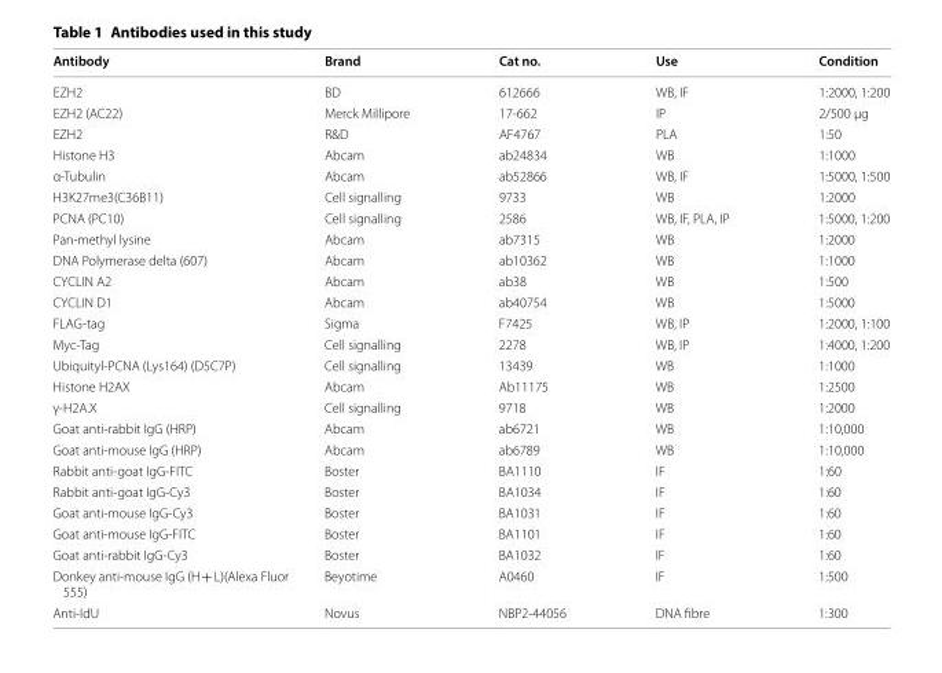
<table><thead><tr><td>Antibody</td><td>Brand</td><td>Cat no.</td><td>Use</td><td>Condition</td></tr></thead><tbody><tr><td>EZH2</td><td>BD</td><td>612666</td><td>WB, IF</td><td>1:2000, 1:200</td></tr><tr><td>EZH2 (AC22)</td><td>Merck Millipore</td><td>17-662</td><td>IP</td><td>2/500 μg</td></tr><tr><td>EZH2</td><td>R&amp;D</td><td>AF4767</td><td>PLA</td><td>1:50</td></tr><tr><td>Histone H3</td><td>Abcam</td><td>ab24834</td><td>WB</td><td>1:1000</td></tr><tr><td>α-Tubulin</td><td>Abcam</td><td>ab52866</td><td>WB, IF</td><td>1:5000, 1:500</td></tr><tr><td>H3K27me3(C36B11)</td><td>Cell signalling</td><td>9733</td><td>WB</td><td>1:2000</td></tr><tr><td>PCNA (PC10)</td><td>Cell signalling</td><td>2586</td><td>WB, IF, PLA, IP</td><td>1:5000, 1:200</td></tr><tr><td>Pan-methyl lysine</td><td>Abcam</td><td>ab7315</td><td>WB</td><td>1:2000</td></tr><tr><td>DNA Polymerase delta (607)</td><td>Abcam</td><td>ab10362</td><td>WB</td><td>1:1000</td></tr><tr><td>CYCLIN A2</td><td>Abcam</td><td>ab38</td><td>WB</td><td>1:500</td></tr><tr><td>CYCLIN D1</td><td>Abcam</td><td>ab40754</td><td>WB</td><td>1:5000</td></tr><tr><td>FLAG-tag</td><td>Sigma</td><td>F7425</td><td>WB, IP</td><td>1:2000, 1:100</td></tr><tr><td>Myc-Tag</td><td>Cell signalling</td><td>2278</td><td>WB, IP</td><td>1:4000, 1:200</td></tr><tr><td>Ubiquityl-PCNA (Lys164) (D5C7P)</td><td>Cell signalling</td><td>13439</td><td>WB</td><td>1:1000</td></tr><tr><td>Histone H2AX</td><td>Abcam</td><td>Ab11175</td><td>WB</td><td>1:2500</td></tr><tr><td>γ-H2A.X</td><td>Cell signalling</td><td>9718</td><td>WB</td><td>1:2000</td></tr><tr><td>Goat anti-rabbit IgG (HRP)</td><td>Abcam</td><td>ab6721</td><td>WB</td><td>1:10,000</td></tr><tr><td>Goat anti-mouse IgG (HRP)</td><td>Abcam</td><td>ab6789</td><td>WB</td><td>1:10,000</td></tr><tr><td>Rabbit anti-goat IgG-FITC</td><td>Boster</td><td>BA1110</td><td>IF</td><td>1:60</td></tr><tr><td>Rabbit anti-goat IgG-Cy3</td><td>Boster</td><td>BA1034</td><td>IF</td><td>1:60</td></tr><tr><td>Goat anti-mouse IgG-Cy3</td><td>Boster</td><td>BA1031</td><td>IF</td><td>1:60</td></tr><tr><td>Goat anti-mouse IgG-FITC</td><td>Boster</td><td>BA1101</td><td>IF</td><td>1:60</td></tr><tr><td>Goat anti-rabbit IgG-Cy3</td><td>Boster</td><td>BA1032</td><td>IF</td><td>1:60</td></tr><tr><td>Donkey anti-mouse IgG (H + L)(Alexa Fluor 555)</td><td>Beyotime</td><td>A0460</td><td>IF</td><td>1:500</td></tr><tr><td>Anti-IdU</td><td>Novus</td><td>NBP2-44056</td><td>DNA fibre</td><td>1:300</td></tr></tbody></table>